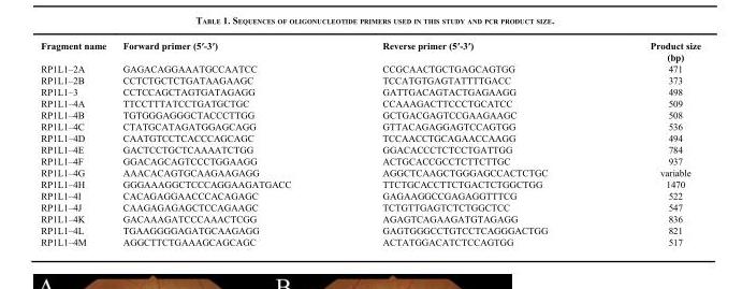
<table><thead><tr><td>Fragment name</td><td>Forward primer (5′-3′)</td><td>Reverse primer (5′-3′)</td><td>Product size (bp)</td></tr></thead><tbody><tr><td>RP1L1–2A</td><td>GAGACAGGAAATGCCAATCC</td><td>CCGCAACTGCTGAGCAGTGG</td><td>471</td></tr><tr><td>RP1L1–2B</td><td>CCTCTGCTCTGATAAGAAGC</td><td>TCCATGTGAGTATTTTGACC</td><td>373</td></tr><tr><td>RP1L1–3</td><td>CCTCCAGCTAGTGATAGAGG</td><td>GATTGACAGTACTGAGAAGG</td><td>498</td></tr><tr><td>RP1L1–4A</td><td>TTCCTTTATCCTGATGCTGC</td><td>CCAAAGACTTCCCTGCATCC</td><td>509</td></tr><tr><td>RP1L1–4B</td><td>TGTGGGAGGGCTACCCTTGG</td><td>GCTGACGAGTCCGAAGAAGC</td><td>508</td></tr><tr><td>RP1L1–4C</td><td>CTATGCATAGATGGAGCAGG</td><td>GTTACAGAGGAGTCCAGTGG</td><td>536</td></tr><tr><td>RP1L1–4D</td><td>CAATGTCCTCACCCAGCAGC</td><td>TCCAACCTGCAGAACCAAGG</td><td>494</td></tr><tr><td>RP1L1–4E</td><td>GACTCCTGCTCAAAATCTGG</td><td>GGACACCCTCTCCTGATTGG</td><td>784</td></tr><tr><td>RP1L1–4F</td><td>GGACAGCAGTCCCTGGAAGG</td><td>ACTGCACCGCCTCTTCTTGC</td><td>937</td></tr><tr><td>RP1L1–4G</td><td>AAACACAGTGCAAGAAGAGG</td><td>AGGCTCAAGCTGGGAGCCACTCTGC</td><td>variable</td></tr><tr><td>RP1L1–4H</td><td>GGGAAAGGCTCCCAGGAAGATGACC</td><td>TTCTGCACCTTCTGACTCTGGCTGG</td><td>1470</td></tr><tr><td>RP1L1–4I</td><td>CACAGAGGAACCCACAGAGC</td><td>GAGAAGGCCGAGAGGTTTCG</td><td>522</td></tr><tr><td>RP1L1–4J</td><td>CAAGAGAGAGCTCCAGAAGC</td><td>TCTGTTGAGTCTCTGGCTCC</td><td>547</td></tr><tr><td>RP1L1–4K</td><td>GACAAAGATCCCAAACTCGG</td><td>AGAGTCAGAAGATGTAGAGG</td><td>836</td></tr><tr><td>RP1L1–4L</td><td>TGAAGGGGAGATGCAAGAGG</td><td>GAGTGGGCCTGTCCTCAGGGACTGG</td><td>821</td></tr><tr><td>RP1L1–4M</td><td>AGGCTTCTGAAAGCAGCAGC</td><td>ACTATGGACATCTCCAGTGG</td><td>517</td></tr></tbody></table>